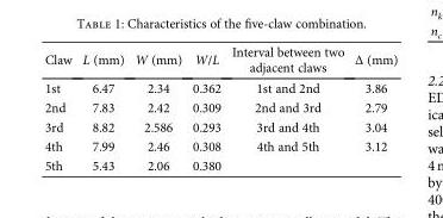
<table><thead><tr><td>Claw</td><td>L (mm)</td><td>W (mm)</td><td>W/L</td><td>Interval between two adjacent claws</td><td>Δ (mm)</td></tr></thead><tbody><tr><td>1st</td><td>6.47</td><td>2.34</td><td>0.362</td><td>1st and 2nd</td><td>3.86</td></tr><tr><td>2nd</td><td>7.83</td><td>2.42</td><td>0.309</td><td>2nd and 3rd</td><td>2.79</td></tr><tr><td>3rd</td><td>8.82</td><td>2.586</td><td>0.293</td><td>3rd and 4th</td><td>3.04</td></tr><tr><td>4th</td><td>7.99</td><td>2.46</td><td>0.308</td><td>4th and 5th</td><td>3.12</td></tr><tr><td>5th</td><td>5.43</td><td>2.06</td><td>0.380</td><td></td><td></td></tr></tbody></table>